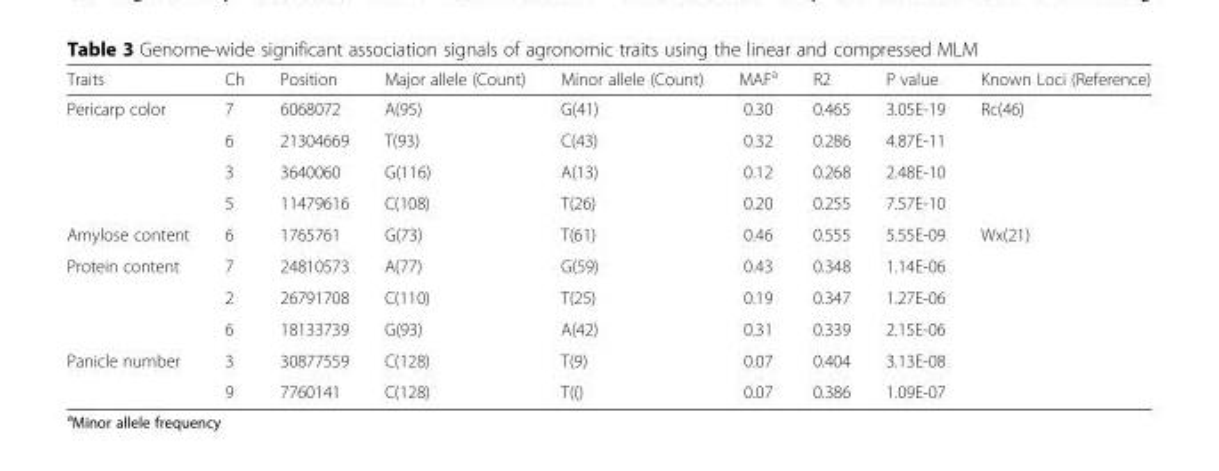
<table><thead><tr><td>Traits</td><td>Ch</td><td>Position</td><td>Major allele (Count)</td><td>Minor allele (Count)</td><td>MAF<sup>a</sup></td><td>R2</td><td>P value</td><td>Known Loci (Reference)</td></tr></thead><tbody><tr><td rowspan="4">Pericarp color</td><td>7</td><td>6068072</td><td>A(95)</td><td>G(41)</td><td>0.30</td><td>0.465</td><td>3.05E-19</td><td>Rc(46)</td></tr><tr><td>6</td><td>21304669</td><td>T(93)</td><td>C(43)</td><td>0.32</td><td>0.286</td><td>4.87E-11</td><td></td></tr><tr><td>3</td><td>3640060</td><td>G(116)</td><td>A(13)</td><td>0.12</td><td>0.268</td><td>2.48E-10</td><td></td></tr><tr><td>5</td><td>11479616</td><td>C(108)</td><td>T(26)</td><td>0.20</td><td>0.255</td><td>7.57E-10</td><td></td></tr><tr><td>Amylose content</td><td>6</td><td>1765761</td><td>G(73)</td><td>T(61)</td><td>0.46</td><td>0.555</td><td>5.55E-09</td><td>Wx(21)</td></tr><tr><td rowspan="3">Protein content</td><td>7</td><td>24810573</td><td>A(77)</td><td>G(59)</td><td>0.43</td><td>0.348</td><td>1.14E-06</td><td></td></tr><tr><td>2</td><td>26791708</td><td>C(110)</td><td>T(25)</td><td>0.19</td><td>0.347</td><td>1.27E-06</td><td></td></tr><tr><td>6</td><td>18133739</td><td>G(93)</td><td>A(42)</td><td>0.31</td><td>0.339</td><td>2.15E-06</td><td></td></tr><tr><td rowspan="2">Panicle number</td><td>3</td><td>30877559</td><td>C(128)</td><td>T(9)</td><td>0.07</td><td>0.404</td><td>3.13E-08</td><td></td></tr><tr><td>9</td><td>7760141</td><td>C(128)</td><td>T(()</td><td>0.07</td><td>0.386</td><td>1.09E-07</td><td></td></tr></tbody></table>